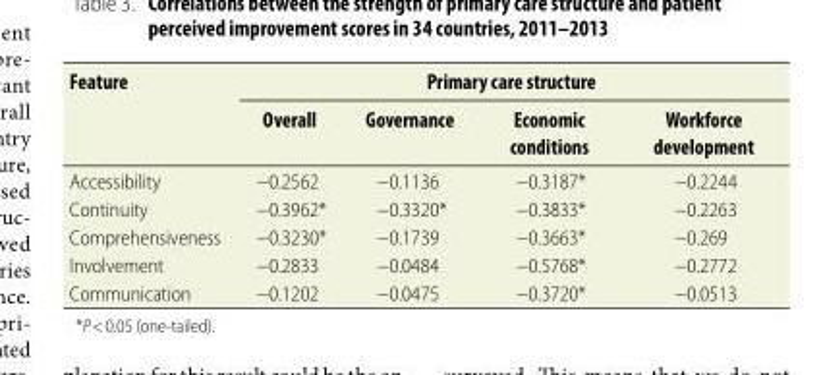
<table><thead><tr><td rowspan="2">Feature</td><td colspan="4">Primary care structure</td></tr><tr><td>Overall</td><td>Governance</td><td>Economic conditions</td><td>Workforce development</td></tr></thead><tbody><tr><td>Accessibility</td><td>−0.2562</td><td>−0.1136</td><td>−0.3187*</td><td>−0.2244</td></tr><tr><td>Continuity</td><td>−0.3962*</td><td>−0.3320*</td><td>−0.3833*</td><td>−0.2263</td></tr><tr><td>Comprehensiveness</td><td>−0.3230*</td><td>−0.1739</td><td>−0.3663*</td><td>−0.269</td></tr><tr><td>Involvement</td><td>−0.2833</td><td>−0.0484</td><td>−0.5768*</td><td>−0.2772</td></tr><tr><td>Communication</td><td>−0.1202</td><td>−0.0475</td><td>−0.3720*</td><td>−0.0513</td></tr></tbody></table>